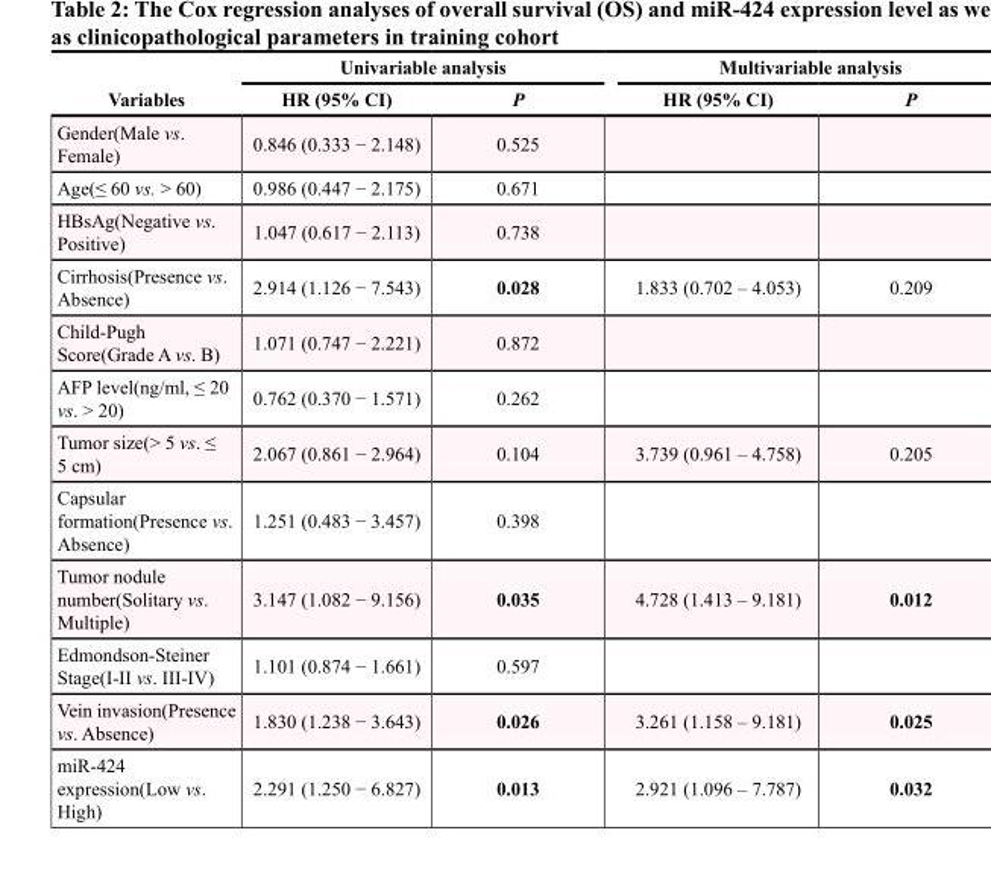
<table><thead><tr><td rowspan="2">Variables</td><td colspan="2">Univariable analysis</td><td colspan="2">Multivariable analysis</td></tr><tr><td>HR (95% CI)</td><td>P</td><td>HR (95% CI)</td><td>P</td></tr></thead><tbody><tr><td>Gender(Male vs. Female)</td><td>0.846 (0.333 − 2.148)</td><td>0.525</td><td></td><td></td></tr><tr><td>Age(≤ 60 vs. &gt; 60)</td><td>0.986 (0.447 − 2.175)</td><td>0.671</td><td></td><td></td></tr><tr><td>HBsAg(Negative vs. Positive)</td><td>1.047 (0.617 − 2.113)</td><td>0.738</td><td></td><td></td></tr><tr><td>Cirrhosis(Presence vs. Absence)</td><td>2.914 (1.126 − 7.543)</td><td>0.028</td><td>1.833 (0.702 – 4.053)</td><td>0.209</td></tr><tr><td>Child-Pugh Score(Grade A vs. B)</td><td>1.071 (0.747 − 2.221)</td><td>0.872</td><td></td><td></td></tr><tr><td>AFP level(ng/ml, ≤ 20 vs. &gt; 20)</td><td>0.762 (0.370 − 1.571)</td><td>0.262</td><td></td><td></td></tr><tr><td>Tumor size(&gt; 5 vs. ≤ 5 cm)</td><td>2.067 (0.861 − 2.964)</td><td>0.104</td><td>3.739 (0.961 – 4.758)</td><td>0.205</td></tr><tr><td>Capsular formation(Presence vs. Absence)</td><td>1.251 (0.483 − 3.457)</td><td>0.398</td><td></td><td></td></tr><tr><td>Tumor nodule number(Solitary vs. Multiple)</td><td>3.147 (1.082 − 9.156)</td><td>0.035</td><td>4.728 (1.413 – 9.181)</td><td>0.012</td></tr><tr><td>Edmondson-Steiner Stage(I-II vs. III-IV)</td><td>1.101 (0.874 − 1.661)</td><td>0.597</td><td></td><td></td></tr><tr><td>Vein invasion(Presence vs. Absence)</td><td>1.830 (1.238 − 3.643)</td><td>0.026</td><td>3.261 (1.158 – 9.181)</td><td>0.025</td></tr><tr><td>miR-424 expression(Low vs. High)</td><td>2.291 (1.250 − 6.827)</td><td>0.013</td><td>2.921 (1.096 – 7.787)</td><td>0.032</td></tr></tbody></table>